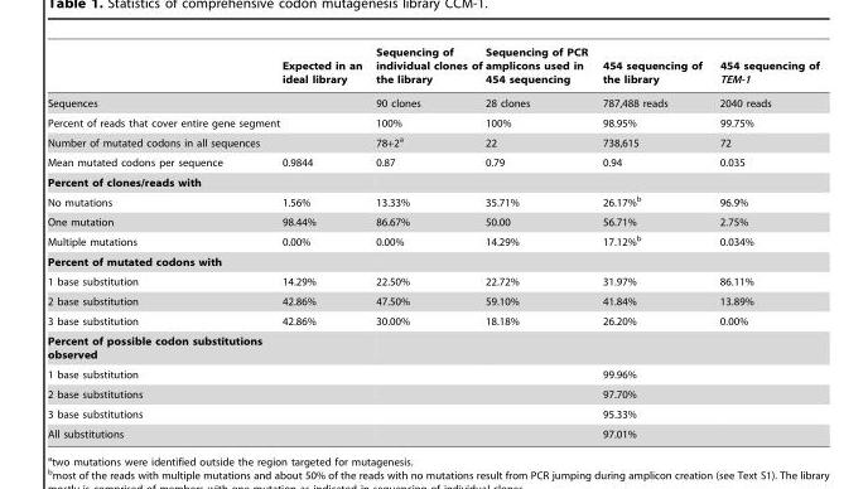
<table><thead><tr><td></td><td>Expected in an ideal library</td><td>Sequencing of individual clones of the library</td><td>Sequencing of PCR amplicons used in 454 sequencing</td><td>454 sequencing of the library</td><td>454 sequencing of TEM-1</td></tr></thead><tbody><tr><td>Sequences</td><td></td><td>90 clones</td><td>28 clones</td><td>787,488 reads</td><td>2040 reads</td></tr><tr><td>Percent of reads that cover entire gene segment</td><td></td><td>100%</td><td>100%</td><td>98.95%</td><td>99.75%</td></tr><tr><td>Number of mutated codons in all sequences</td><td></td><td>78+2<sup>a</sup></td><td>22</td><td>738,615</td><td>72</td></tr><tr><td>Mean mutated codons per sequence</td><td>0.9844</td><td>0.87</td><td>0.79</td><td>0.94</td><td>0.035</td></tr><tr><td colspan="6">Percent of clones/reads with</td></tr><tr><td>No mutations</td><td>1.56%</td><td>13.33%</td><td>35.71%</td><td>26.17%<sup>b</sup></td><td>96.9%</td></tr><tr><td>One mutation</td><td>98.44%</td><td>86.67%</td><td>50.00</td><td>56.71%</td><td>2.75%</td></tr><tr><td>Multiple mutations</td><td>0.00%</td><td>0.00%</td><td>14.29%</td><td>17.12%<sup>b</sup></td><td>0.034%</td></tr><tr><td colspan="6">Percent of mutated codons with</td></tr><tr><td>1 base substitution</td><td>14.29%</td><td>22.50%</td><td>22.72%</td><td>31.97%</td><td>86.11%</td></tr><tr><td>2 base substitution</td><td>42.86%</td><td>47.50%</td><td>59.10%</td><td>41.84%</td><td>13.89%</td></tr><tr><td>3 base substitution</td><td>42.86%</td><td>30.00%</td><td>18.18%</td><td>26.20%</td><td>0.00%</td></tr><tr><td colspan="6">Percent of possible codon substitutions observed</td></tr><tr><td>1 base substitution</td><td></td><td></td><td></td><td>99.96%</td><td></td></tr><tr><td>2 base substitutions</td><td></td><td></td><td></td><td>97.70%</td><td></td></tr><tr><td>3 base substitutions</td><td></td><td></td><td></td><td>95.33%</td><td></td></tr><tr><td>All substitutions</td><td></td><td></td><td></td><td>97.01%</td><td></td></tr></tbody></table>